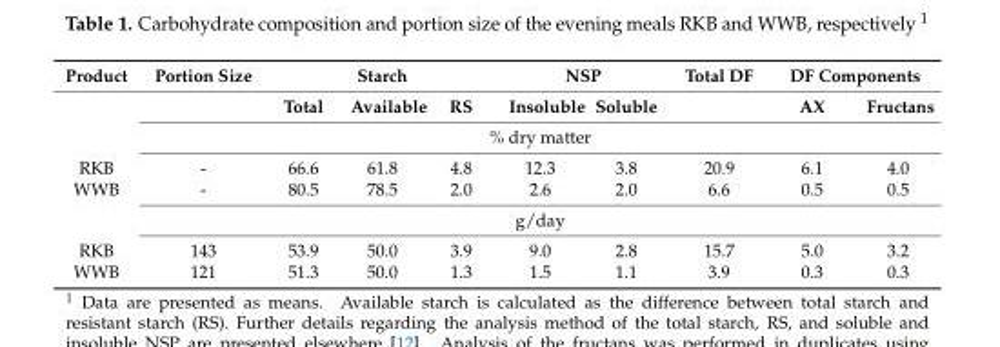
<table><thead><tr><td rowspan="2">Product</td><td rowspan="2">Portion Size</td><td colspan="3">Starch</td><td colspan="2">NSP</td><td rowspan="2">Total DF</td><td colspan="2">DF Components</td></tr><tr><td>Total</td><td>Available</td><td>RS</td><td>Insoluble</td><td>Soluble</td><td>AX</td><td>Fructans</td></tr></thead><tbody><tr><td></td><td colspan="9">% dry matter</td></tr><tr><td>RKB</td><td>-</td><td>66.6</td><td>61.8</td><td>4.8</td><td>12.3</td><td>3.8</td><td>20.9</td><td>6.1</td><td>4.0</td></tr><tr><td rowspan="2">WWB</td><td>-</td><td>80.5</td><td>78.5</td><td>2.0</td><td>2.6</td><td>2.0</td><td>6.6</td><td>0.5</td><td>0.5</td></tr><tr><td colspan="9">g/day</td></tr><tr><td>RKB</td><td>143</td><td>53.9</td><td>50.0</td><td>3.9</td><td>9.0</td><td>2.8</td><td>15.7</td><td>5.0</td><td>3.2</td></tr><tr><td>WWB</td><td>121</td><td>51.3</td><td>50.0</td><td>1.3</td><td>1.5</td><td>1.1</td><td>3.9</td><td>0.3</td><td>0.3</td></tr></tbody></table>